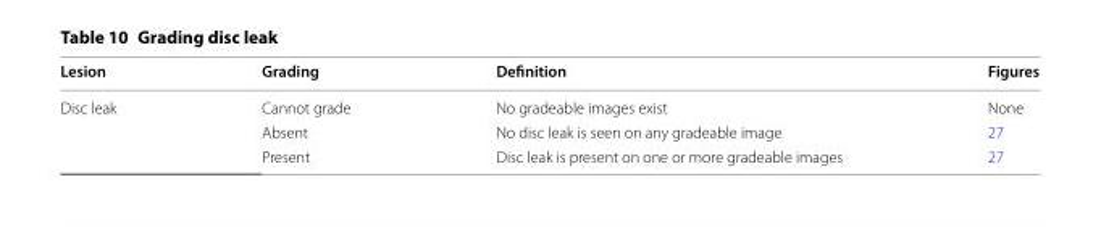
<table><thead><tr><td>Lesion</td><td>Grading</td><td>Definition</td><td>Figures</td></tr></thead><tbody><tr><td rowspan="3">Disc leak</td><td>Cannot grade</td><td>No gradeable images exist</td><td>None</td></tr><tr><td>Absent</td><td>No disc leak is seen on any gradeable image</td><td>27</td></tr><tr><td>Present</td><td>Disc leak is present on one or more gradeable images</td><td>27</td></tr></tbody></table>